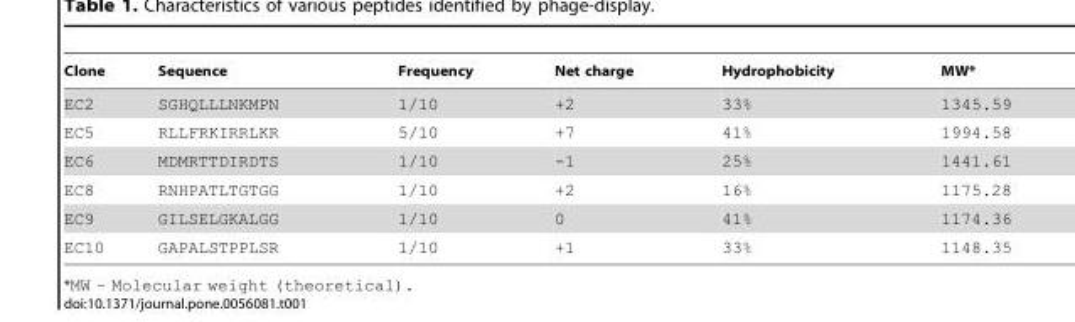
<table><thead><tr><td>Clone</td><td>Sequence</td><td>Frequency</td><td>Net charge</td><td>Hydrophobicity</td><td>MW*</td></tr></thead><tbody><tr><td>EC2</td><td>SGHQLLLNKMPN</td><td>1/10</td><td>+2</td><td>33%</td><td>1345.59</td></tr><tr><td>EC5</td><td>RLLFRKIRRLKR</td><td>5/10</td><td>+7</td><td>41%</td><td>1994.58</td></tr><tr><td>EC6</td><td>MDMRTTDIRDTS</td><td>1/10</td><td>-1</td><td>25%</td><td>1441.61</td></tr><tr><td>EC8</td><td>RNHPATLTGTGG</td><td>1/10</td><td>+2</td><td>16%</td><td>1175.28</td></tr><tr><td>EC9</td><td>GILSELGKALGG</td><td>1/10</td><td>0</td><td>41%</td><td>1174.36</td></tr><tr><td>EC10</td><td>GAPALSTPPLSR</td><td>1/10</td><td>+1</td><td>33%</td><td>1148.35</td></tr></tbody></table>